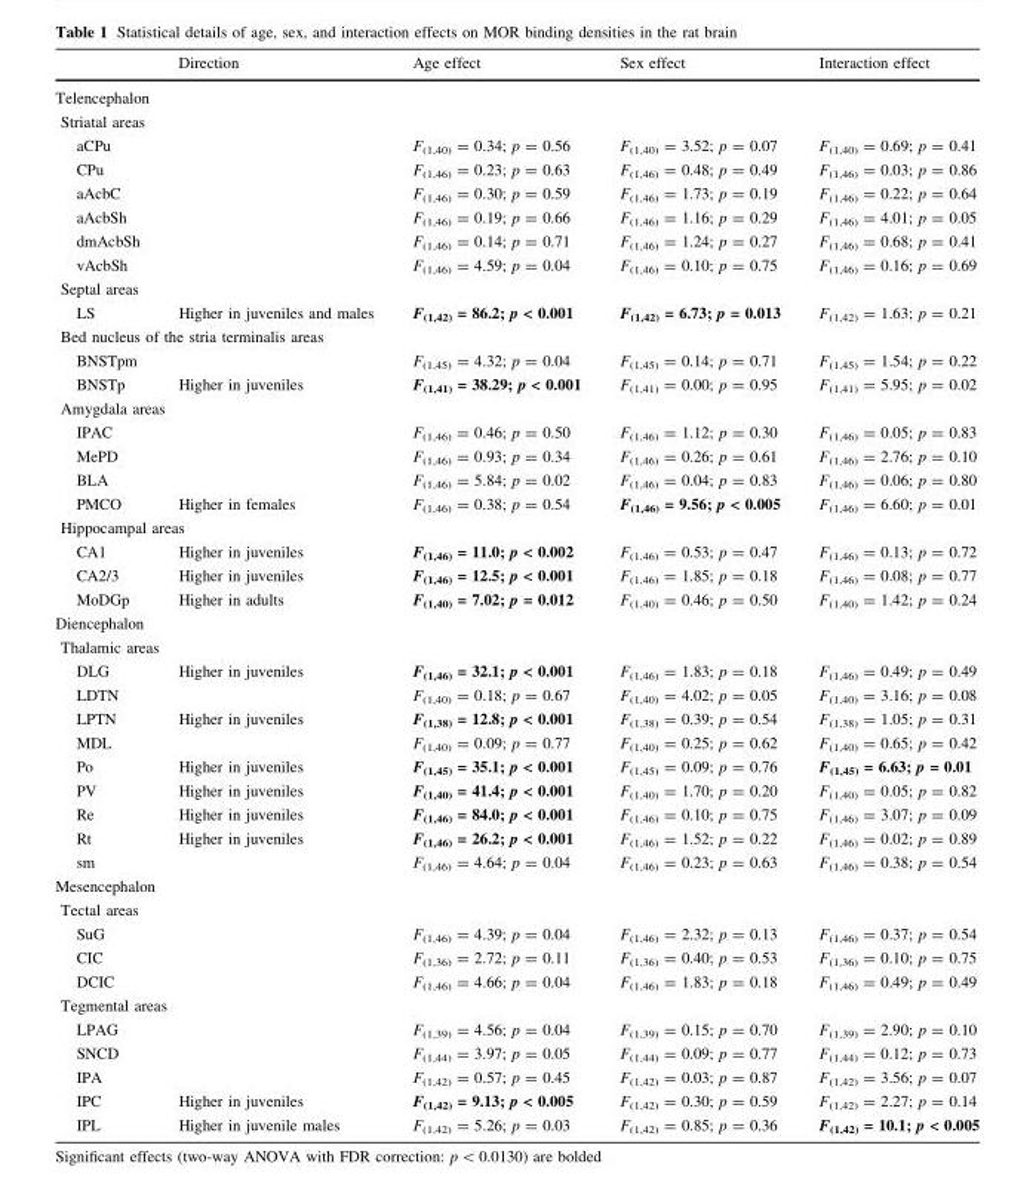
<table><thead><tr><td></td><td>Direction</td><td>Age effect</td><td>Sex effect</td><td>Interaction effect</td></tr></thead><tbody><tr><td colspan="5">Telencephalon</td></tr><tr><td colspan="5">Striatal areas</td></tr><tr><td>aCPu</td><td></td><td>F<sub>(1,40)</sub> = 0.34; p = 0.56</td><td>F<sub>(1,40)</sub> = 3.52; p = 0.07</td><td>F<sub>(1,40)</sub> = 0.69; p = 0.41</td></tr><tr><td>CPu</td><td></td><td>F<sub>(1,46)</sub> = 0.23; p = 0.63</td><td>F<sub>(1,46)</sub> = 0.48; p = 0.49</td><td>F<sub>(1,46)</sub> = 0.03; p = 0.86</td></tr><tr><td>aAcbC</td><td></td><td>F<sub>(1,46)</sub> = 0.30; p = 0.59</td><td>F<sub>(1,46)</sub> = 1.73; p = 0.19</td><td>F<sub>(1,46)</sub> = 0.22; p = 0.64</td></tr><tr><td>aAcbSh</td><td></td><td>F<sub>(1,46)</sub> = 0.19; p = 0.66</td><td>F<sub>(1,46)</sub> = 1.16; p = 0.29</td><td>F<sub>(1,46)</sub> = 4.01; p = 0.05</td></tr><tr><td>dmAcbSh</td><td></td><td>F<sub>(1,46)</sub> = 0.14; p = 0.71</td><td>F<sub>(1,46)</sub> = 1.24; p = 0.27</td><td>F<sub>(1,46)</sub> = 0.68; p = 0.41</td></tr><tr><td>vAcbSh</td><td></td><td>F<sub>(1,46)</sub> = 4.59; p = 0.04</td><td>F<sub>(1,46)</sub> = 0.10; p = 0.75</td><td>F<sub>(1,46)</sub> = 0.16; p = 0.69</td></tr><tr><td colspan="5">Septal areas</td></tr><tr><td>LS</td><td>Higher in juveniles and males</td><td>F<sub>(1,42)</sub> = 86.2; p &lt; 0.001</td><td>F<sub>(1,42)</sub> = 6.73; p = 0.013</td><td>F<sub>(1,42)</sub> = 1.63; p = 0.21</td></tr><tr><td colspan="5">Bed nucleus of the stria terminalis areas</td></tr><tr><td>BNSTpm</td><td></td><td>F<sub>(1,45)</sub> = 4.32; p = 0.04</td><td>F<sub>(1,45)</sub> = 0.14; p = 0.71</td><td>F<sub>(1,45)</sub> = 1.54; p = 0.22</td></tr><tr><td>BNSTp</td><td>Higher in juveniles</td><td>F<sub>(1,41)</sub> = 38.29; p &lt; 0.001</td><td>F<sub>(1,41)</sub> = 0.00; p = 0.95</td><td>F<sub>(1,41)</sub> = 5.95; p = 0.02</td></tr><tr><td colspan="5">Amygdala areas</td></tr><tr><td>IPAC</td><td></td><td>F<sub>(1,46)</sub> = 0.46; p = 0.50</td><td>F<sub>(1,46)</sub> = 1.12; p = 0.30</td><td>F<sub>(1,46)</sub> = 0.05; p = 0.83</td></tr><tr><td>MePD</td><td></td><td>F<sub>(1,46)</sub> = 0.93; p = 0.34</td><td>F<sub>(1,46)</sub> = 0.26; p = 0.61</td><td>F<sub>(1,46)</sub> = 2.76; p = 0.10</td></tr><tr><td>BLA</td><td></td><td>F<sub>(1,46)</sub> = 5.84; p = 0.02</td><td>F<sub>(1,46)</sub> = 0.04; p = 0.83</td><td>F<sub>(1,46)</sub> = 0.06; p = 0.80</td></tr><tr><td>PMCO</td><td>Higher in females</td><td>F<sub>(1,46)</sub> = 0.38; p = 0.54</td><td>F<sub>(1,46)</sub> = 9.56; p &lt; 0.005</td><td>F<sub>(1,46)</sub> = 6.60; p = 0.01</td></tr><tr><td colspan="5">Hippocampal areas</td></tr><tr><td>CA1</td><td>Higher in juveniles</td><td>F<sub>(1,46)</sub> = 11.0; p &lt; 0.002</td><td>F<sub>(1,46)</sub> = 0.53; p = 0.47</td><td>F<sub>(1,46)</sub> = 0.13; p = 0.72</td></tr><tr><td>CA2/3</td><td>Higher in juveniles</td><td>F<sub>(1,46)</sub> = 12.5; p &lt; 0.001</td><td>F<sub>(1,46)</sub> = 1.85; p = 0.18</td><td>F<sub>(1,46)</sub> = 0.08; p = 0.77</td></tr><tr><td>MoDGp</td><td>Higher in adults</td><td>F<sub>(1,40)</sub> = 7.02; p = 0.012</td><td>F<sub>(1,40)</sub> = 0.46; p = 0.50</td><td>F<sub>(1,40)</sub> = 1.42; p = 0.24</td></tr><tr><td colspan="5">Diencephalon</td></tr><tr><td colspan="5">Thalamic areas</td></tr><tr><td>DLG</td><td>Higher in juveniles</td><td>F<sub>(1,46)</sub> = 32.1; p &lt; 0.001</td><td>F<sub>(1,46)</sub> = 1.83; p = 0.18</td><td>F<sub>(1,46)</sub> = 0.49; p = 0.49</td></tr><tr><td>LDTN</td><td></td><td>F<sub>(1,40)</sub> = 0.18; p = 0.67</td><td>F<sub>(1,40)</sub> = 4.02; p = 0.05</td><td>F<sub>(1,40)</sub> = 3.16; p = 0.08</td></tr><tr><td>LPTN</td><td>Higher in juveniles</td><td>F<sub>(1,38)</sub> = 12.8; p &lt; 0.001</td><td>F<sub>(1,38)</sub> = 0.39; p = 0.54</td><td>F<sub>(1,38)</sub> = 1.05; p = 0.31</td></tr><tr><td>MDL</td><td></td><td>F<sub>(1,40)</sub> = 0.09; p = 0.77</td><td>F<sub>(1,40)</sub> = 0.25; p = 0.62</td><td>F<sub>(1,40)</sub> = 0.65; p = 0.42</td></tr><tr><td>Po</td><td>Higher in juveniles</td><td>F<sub>(1,45)</sub> = 35.1; p &lt; 0.001</td><td>F<sub>(1,45)</sub> = 0.09; p = 0.76</td><td>F<sub>(1,45)</sub> = 6.63; p = 0.01</td></tr><tr><td>PV</td><td>Higher in juveniles</td><td>F<sub>(1,40)</sub> = 41.4; p &lt; 0.001</td><td>F<sub>(1,40)</sub> = 1.70; p = 0.20</td><td>F<sub>(1,40)</sub> = 0.05; p = 0.82</td></tr><tr><td>Re</td><td>Higher in juveniles</td><td>F<sub>(1,46)</sub> = 84.0; p &lt; 0.001</td><td>F<sub>(1,46)</sub> = 0.10; p = 0.75</td><td>F<sub>(1,46)</sub> = 3.07; p = 0.09</td></tr><tr><td>Rt</td><td>Higher in juveniles</td><td>F<sub>(1,46)</sub> = 26.2; p &lt; 0.001</td><td>F<sub>(1,46)</sub> = 1.52; p = 0.22</td><td>F<sub>(1,46)</sub> = 0.02; p = 0.89</td></tr><tr><td>sm</td><td></td><td>F<sub>(1,46)</sub> = 4.64; p = 0.04</td><td>F<sub>(1,46)</sub> = 0.23; p = 0.63</td><td>F<sub>(1,46)</sub> = 0.38; p = 0.54</td></tr><tr><td colspan="5">Mesencephalon</td></tr><tr><td colspan="5">Tectal areas</td></tr><tr><td>SuG</td><td></td><td>F<sub>(1,46)</sub> = 4.39; p = 0.04</td><td>F<sub>(1,46)</sub> = 2.32; p = 0.13</td><td>F<sub>(1,46)</sub> = 0.37; p = 0.54</td></tr><tr><td>CIC</td><td></td><td>F<sub>(1,36)</sub> = 2.72; p = 0.11</td><td>F<sub>(1,36)</sub> = 0.40; p = 0.53</td><td>F<sub>(1,36)</sub> = 0.10; p = 0.75</td></tr><tr><td>DCIC</td><td></td><td>F<sub>(1,46)</sub> = 4.66; p = 0.04</td><td>F<sub>(1,46)</sub> = 1.83; p = 0.18</td><td>F<sub>(1,46)</sub> = 0.49; p = 0.49</td></tr><tr><td colspan="5">Tegmental areas</td></tr><tr><td>LPAG</td><td></td><td>F<sub>(1,39)</sub> = 4.56; p = 0.04</td><td>F<sub>(1,39)</sub> = 0.15; p = 0.70</td><td>F<sub>(1,39)</sub> = 2.90; p = 0.10</td></tr><tr><td>SNCD</td><td></td><td>F<sub>(1,44)</sub> = 3.97; p = 0.05</td><td>F<sub>(1,44)</sub> = 0.09; p = 0.77</td><td>F<sub>(1,44)</sub> = 0.12; p = 0.73</td></tr><tr><td>IPA</td><td></td><td>F<sub>(1,42)</sub> = 0.57; p = 0.45</td><td>F<sub>(1,42)</sub> = 0.03; p = 0.87</td><td>F<sub>(1,42)</sub> = 3.56; p = 0.07</td></tr><tr><td>IPC</td><td>Higher in juveniles</td><td>F<sub>(1,42)</sub> = 9.13; p &lt; 0.005</td><td>F<sub>(1,42)</sub> = 0.30; p = 0.59</td><td>F<sub>(1,42)</sub> = 2.27; p = 0.14</td></tr><tr><td>IPL</td><td>Higher in juvenile males</td><td>F<sub>(1,42)</sub> = 5.26; p = 0.03</td><td>F<sub>(1,42)</sub> = 0.85; p = 0.36</td><td>F<sub>(1,42)</sub> = 10.1; p &lt; 0.005</td></tr></tbody></table>